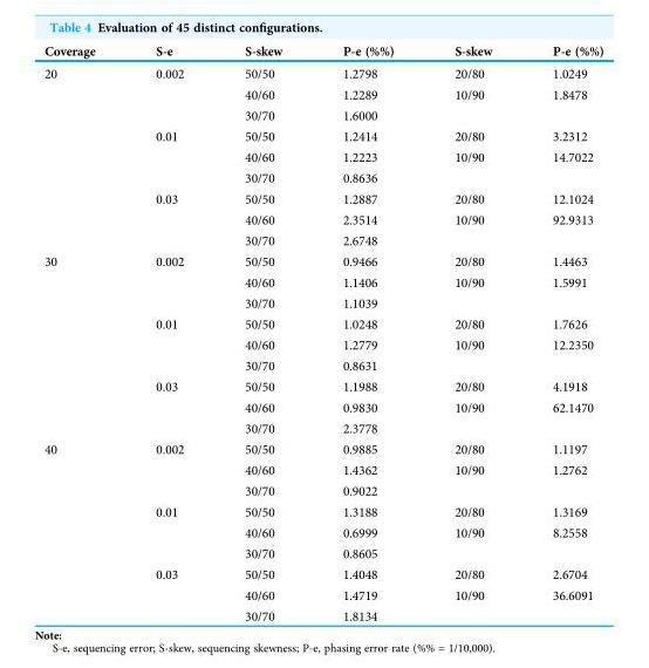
<table><thead><tr><td>Coverage</td><td>S-e</td><td>S-skew</td><td>P-e (%%)</td><td>S-skew</td><td>P-e (%%)</td></tr></thead><tbody><tr><td rowspan="9">20</td><td>0.002</td><td>50/50</td><td>1.2798</td><td>20/80</td><td>1.0249</td></tr><tr><td></td><td>40/60</td><td>1.2289</td><td>10/90</td><td>1.8478</td></tr><tr><td></td><td>30/70</td><td>1.6000</td><td></td><td></td></tr><tr><td>0.01</td><td>50/50</td><td>1.2414</td><td>20/80</td><td>3.2312</td></tr><tr><td></td><td>40/60</td><td>1.2223</td><td>10/90</td><td>14.7022</td></tr><tr><td></td><td>30/70</td><td>0.8636</td><td></td><td></td></tr><tr><td>0.03</td><td>50/50</td><td>1.2887</td><td>20/80</td><td>12.1024</td></tr><tr><td></td><td>40/60</td><td>2.3514</td><td>10/90</td><td>92.9313</td></tr><tr><td></td><td>30/70</td><td>2.6748</td><td></td><td></td></tr><tr><td rowspan="9">30</td><td>0.002</td><td>50/50</td><td>0.9466</td><td>20/80</td><td>1.4463</td></tr><tr><td></td><td>40/60</td><td>1.1406</td><td>10/90</td><td>1.5991</td></tr><tr><td></td><td>30/70</td><td>1.1039</td><td></td><td></td></tr><tr><td>0.01</td><td>50/50</td><td>1.0248</td><td>20/80</td><td>1.7626</td></tr><tr><td></td><td>40/60</td><td>1.2779</td><td>10/90</td><td>12.2350</td></tr><tr><td></td><td>30/70</td><td>0.8631</td><td></td><td></td></tr><tr><td>0.03</td><td>50/50</td><td>1.1988</td><td>20/80</td><td>4.1918</td></tr><tr><td></td><td>40/60</td><td>0.9830</td><td>10/90</td><td>62.1470</td></tr><tr><td></td><td>30/70</td><td>2.3778</td><td></td><td></td></tr><tr><td rowspan="9">40</td><td>0.002</td><td>50/50</td><td>0.9885</td><td>20/80</td><td>1.1197</td></tr><tr><td></td><td>40/60</td><td>1.4362</td><td>10/90</td><td>1.2762</td></tr><tr><td></td><td>30/70</td><td>0.9022</td><td></td><td></td></tr><tr><td>0.01</td><td>50/50</td><td>1.3188</td><td>20/80</td><td>1.3169</td></tr><tr><td></td><td>40/60</td><td>0.6999</td><td>10/90</td><td>8.2558</td></tr><tr><td></td><td>30/70</td><td>0.8605</td><td></td><td></td></tr><tr><td>0.03</td><td>50/50</td><td>1.4048</td><td>20/80</td><td>2.6704</td></tr><tr><td></td><td>40/60</td><td>1.4719</td><td>10/90</td><td>36.6091</td></tr><tr><td></td><td>30/70</td><td>1.8134</td><td></td><td></td></tr></tbody></table>